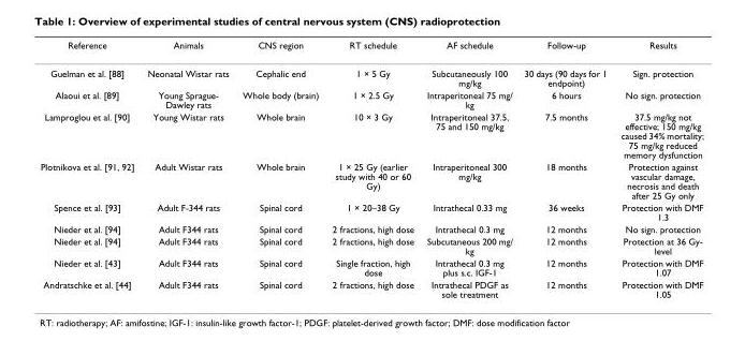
<table><thead><tr><td>Reference</td><td>Animals</td><td>CNS region</td><td>RT schedule</td><td>AF schedule</td><td>Follow-up</td><td>Results</td></tr></thead><tbody><tr><td>Guelman et al. [88]</td><td>Neonatal Wistar rats</td><td>Cephalic end</td><td>1 × 5 Gy</td><td>Subcutaneously 100 mg/kg</td><td>30 days (90 days for 1 endpoint)</td><td>Sign. protection</td></tr><tr><td>Alaoui et al. [89]</td><td>Young Sprague- Dawley rats</td><td>Whole body (brain)</td><td>1 × 2.5 Gy</td><td>Intraperitoneal 75 mg/ kg</td><td>6 hours</td><td>No sign. protection</td></tr><tr><td>Lamproglou et al. [90]</td><td>Young Wistar rats</td><td>Whole brain</td><td>10 × 3 Gy</td><td>Intraperitoneal 37.5, 75 and 150 mg/kg</td><td>7.5 months</td><td>37.5 mg/kg not effective; 150 mg/kg caused 34% mortality; 75 mg/kg reduced memory dysfunction</td></tr><tr><td>Plotnikova et al. [91, 92]</td><td>Adult Wistar rats</td><td>Whole brain</td><td>1 × 25 Gy (earlier study with 40 or 60 Gy)</td><td>Intraperitoneal 300 mg/kg</td><td>18 months</td><td>Protection against vascular damage, necrosis and death after 25 Gy only</td></tr><tr><td>Spence et al. [93]</td><td>Adult F-344 rats</td><td>Spinal cord</td><td>1 × 20–38 Gy</td><td>Intrathecal 0.33 mg</td><td>36 weeks</td><td>Protection with DMF 1.3</td></tr><tr><td>Nieder et al. [94]</td><td>Adult F344 rats</td><td>Spinal cord</td><td>2 fractions, high dose</td><td>Intrathecal 0.3 mg</td><td>12 months</td><td>No sign. protection</td></tr><tr><td>Nieder et al. [94]</td><td>Adult F344 rats</td><td>Spinal cord</td><td>2 fractions, high dose</td><td>Subcutaneous 200 mg/ kg</td><td>12 months</td><td>Protection at 36 Gy- level</td></tr><tr><td>Nieder et al. [43]</td><td>Adult F344 rats</td><td>Spinal cord</td><td>Single fraction, high dose</td><td>Intrathecal 0.3 mg plus s.c. IGF-1</td><td>12 months</td><td>Protection with DMF 1.07</td></tr><tr><td>Andratschke et al. [44]</td><td>Adult F344 rats</td><td>Spinal cord</td><td>2 fractions, high dose</td><td>Intrathecal PDGF as sole treatment</td><td>12 months</td><td>Protection with DMF 1.05</td></tr></tbody></table>